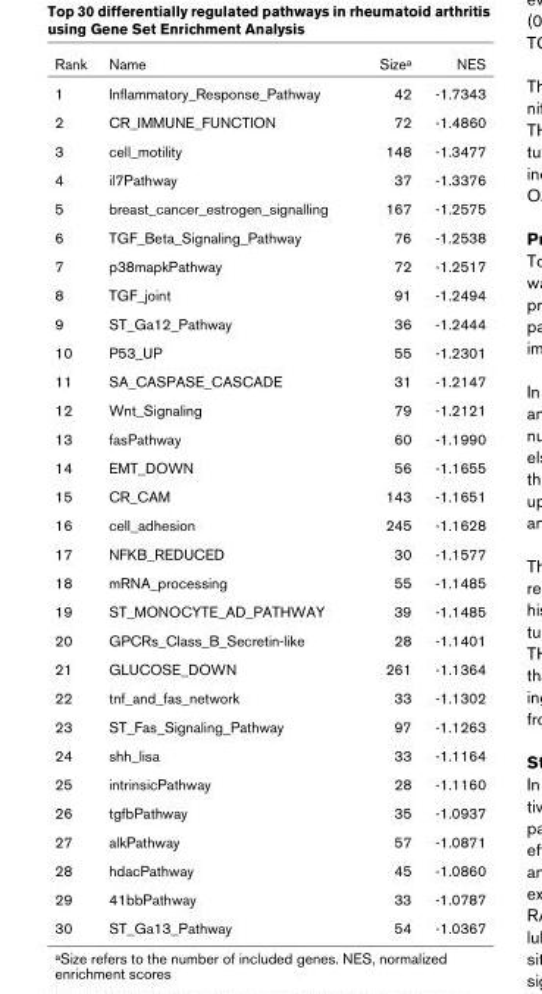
<table><thead><tr><td>Rank</td><td>Name</td><td>Size<sup>a</sup></td><td>NES</td></tr></thead><tbody><tr><td>1</td><td>Inflammatory_Response_Pathway</td><td>42</td><td>-1.7343</td></tr><tr><td>2</td><td>CR_IMMUNE_FUNCTION</td><td>72</td><td>-1.4860</td></tr><tr><td>3</td><td>cell_motility</td><td>148</td><td>-1.3477</td></tr><tr><td>4</td><td>il7Pathway</td><td>37</td><td>-1.3376</td></tr><tr><td>5</td><td>breast_cancer_estrogen_signalling</td><td>167</td><td>-1.2575</td></tr><tr><td>6</td><td>TGF_Beta_Signaling_Pathway</td><td>76</td><td>-1.2538</td></tr><tr><td>7</td><td>p38mapkPathway</td><td>72</td><td>-1.2517</td></tr><tr><td>8</td><td>TGF_joint</td><td>91</td><td>-1.2494</td></tr><tr><td>9</td><td>ST_Ga12_Pathway</td><td>36</td><td>-1.2444</td></tr><tr><td>10</td><td>P53_UP</td><td>55</td><td>-1.2301</td></tr><tr><td>11</td><td>SA_CASPASE_CASCADE</td><td>31</td><td>-1.2147</td></tr><tr><td>12</td><td>Wnt_Signaling</td><td>79</td><td>-1.2121</td></tr><tr><td>13</td><td>fasPathway</td><td>60</td><td>-1.1990</td></tr><tr><td>14</td><td>EMT_DOWN</td><td>56</td><td>-1.1655</td></tr><tr><td>15</td><td>CR_CAM</td><td>143</td><td>-1.1651</td></tr><tr><td>16</td><td>cell_adhesion</td><td>245</td><td>-1.1628</td></tr><tr><td>17</td><td>NFKB_REDUCED</td><td>30</td><td>-1.1577</td></tr><tr><td>18</td><td>mRNA_processing</td><td>55</td><td>-1.1485</td></tr><tr><td>19</td><td>ST_MONOCYTE_AD_PATHWAY</td><td>39</td><td>-1.1485</td></tr><tr><td>20</td><td>GPCRs_Class_B_Secretin-like</td><td>28</td><td>-1.1401</td></tr><tr><td>21</td><td>GLUCOSE_DOWN</td><td>261</td><td>-1.1364</td></tr><tr><td>22</td><td>tnf_and_fas_network</td><td>33</td><td>-1.1302</td></tr><tr><td>23</td><td>ST_Fas_Signaling_Pathway</td><td>97</td><td>-1.1263</td></tr><tr><td>24</td><td>shh_lisa</td><td>33</td><td>-1.1164</td></tr><tr><td>25</td><td>intrinsicPathway</td><td>28</td><td>-1.1160</td></tr><tr><td>26</td><td>tgfbPathway</td><td>35</td><td>-1.0937</td></tr><tr><td>27</td><td>alkPathway</td><td>57</td><td>-1.0871</td></tr><tr><td>28</td><td>hdacPathway</td><td>45</td><td>-1.0860</td></tr><tr><td>29</td><td>41bbPathway</td><td>33</td><td>-1.0787</td></tr><tr><td>30</td><td>ST_Ga13_Pathway</td><td>54</td><td>-1.0367</td></tr></tbody></table>